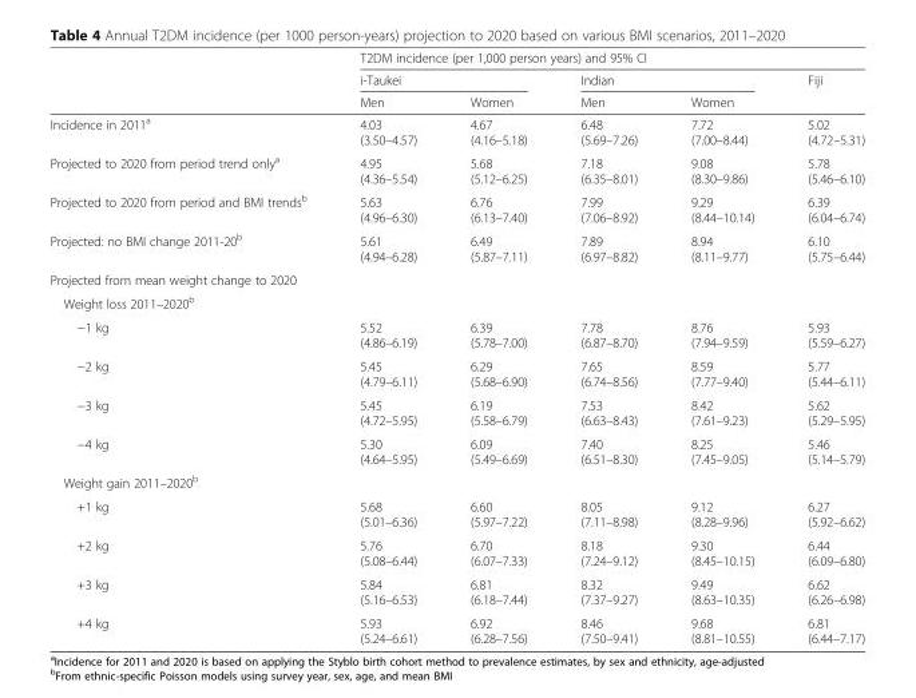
<table><thead><tr><td rowspan="3"></td><td colspan="5">T2DM incidence (per 1,000 person years) and 95% CI</td></tr><tr><td colspan="2">i-Taukei</td><td colspan="2">Indian</td><td rowspan="2">Fiji</td></tr><tr><td>Men</td><td>Women</td><td>Men</td><td>Women</td></tr></thead><tbody><tr><td>Incidence in 2011<sup>a</sup></td><td>4.03 (3.50–4.57)</td><td>4.67 (4.16–5.18)</td><td>6.48 (5.69–7.26)</td><td>7.72 (7.00–8.44)</td><td>5.02 (4.72–5.31)</td></tr><tr><td>Projected to 2020 from period trend only<sup>a</sup></td><td>4.95 (4.36–5.54)</td><td>5.68 (5.12–6.25)</td><td>7.18 (6.35–8.01)</td><td>9.08 (8.30–9.86)</td><td>5.78 (5.46–6.10)</td></tr><tr><td>Projected to 2020 from period and BMI trends<sup>b</sup></td><td>5.63 (4.96–6.30)</td><td>6.76 (6.13–7.40)</td><td>7.99 (7.06–8.92)</td><td>9.29 (8.44–10.14)</td><td>6.39 (6.04–6.74)</td></tr><tr><td>Projected: no BMI change 2011-20<sup>b</sup></td><td>5.61 (4.94–6.28)</td><td>6.49 (5.87–7.11)</td><td>7.89 (6.97–8.82)</td><td>8.94 (8.11–9.77)</td><td>6.10 (5.75–6.44)</td></tr><tr><td colspan="6">Projected from mean weight change to 2020</td></tr><tr><td colspan="6">Weight loss 2011–2020<sup>b</sup></td></tr><tr><td>−1 kg</td><td>5.52 (4.86–6.19)</td><td>6.39 (5.78–7.00)</td><td>7.78 (6.87–8.70)</td><td>8.76 (7.94–9.59)</td><td>5.93 (5.59–6.27)</td></tr><tr><td>−2 kg</td><td>5.45 (4.79–6.11)</td><td>6.29 (5.68–6.90)</td><td>7.65 (6.74–8.56)</td><td>8.59 (7.77–9.40)</td><td>5.77 (5.44–6.11)</td></tr><tr><td>−3 kg</td><td>5.45 (4.72–5.95)</td><td>6.19 (5.58–6.79)</td><td>7.53 (6.63–8.43)</td><td>8.42 (7.61–9.23)</td><td>5.62 (5.29–5.95)</td></tr><tr><td>−4 kg</td><td>5.30 (4.64–5.95)</td><td>6.09 (5.49–6.69)</td><td>7.40 (6.51–8.30)</td><td>8.25 (7.45–9.05)</td><td>5.46 (5.14–5.79)</td></tr><tr><td colspan="6">Weight gain 2011–2020<sup>b</sup></td></tr><tr><td>+1 kg</td><td>5.68 (5.01–6.36)</td><td>6.60 (5.97–7.22)</td><td>8.05 (7.11–8.98)</td><td>9.12 (8.28–9.96)</td><td>6.27 (5.92–6.62)</td></tr><tr><td>+2 kg</td><td>5.76 (5.08–6.44)</td><td>6.70 (6.07–7.33)</td><td>8.18 (7.24–9.12)</td><td>9.30 (8.45–10.15)</td><td>6.44 (6.09–6.80)</td></tr><tr><td>+3 kg</td><td>5.84 (5.16–6.53)</td><td>6.81 (6.18–7.44)</td><td>8.32 (7.37–9.27)</td><td>9.49 (8.63–10.35)</td><td>6.62 (6.26–6.98)</td></tr><tr><td>+4 kg</td><td>5.93 (5.24–6.61)</td><td>6.92 (6.28–7.56)</td><td>8.46 (7.50–9.41)</td><td>9.68 (8.81–10.55)</td><td>6.81 (6.44–7.17)</td></tr></tbody></table>